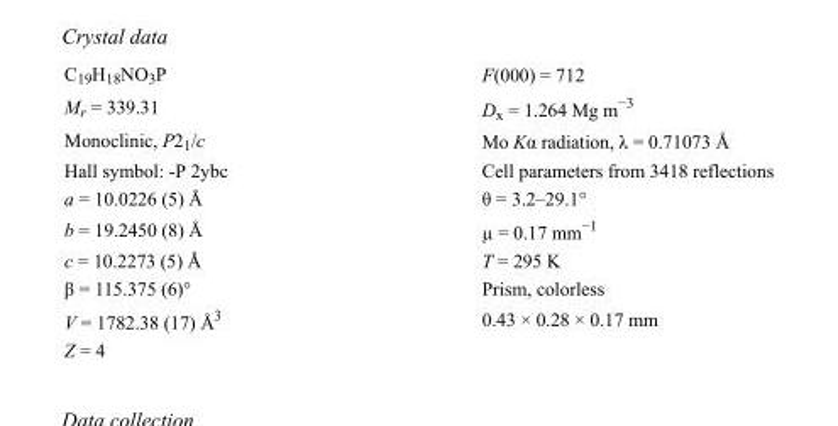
<table><tbody><tr><td>C<sub>19</sub>H<sub>18</sub>NO<sub>3</sub>P</td><td>F(000) = 712</td></tr><tr><td>M<sub>r</sub> = 339.31</td><td>D<sub>x</sub> = 1.264 Mg m<sup>−3</sup></td></tr><tr><td>Monoclinic, P2<sub>1</sub>/c</td><td>Mo Kα radiation, λ = 0.71073 Å</td></tr><tr><td>Hall symbol: -P 2ybc</td><td>Cell parameters from 3418 reflections</td></tr><tr><td>a = 10.0226 (5) Å</td><td>θ = 3.2–29.1°</td></tr><tr><td>b = 19.2450 (8) Å</td><td>µ = 0.17 mm<sup>−1</sup></td></tr><tr><td>c = 10.2273 (5) Å</td><td>T = 295 K</td></tr><tr><td>β = 115.375 (6)°</td><td>Prism, colorless</td></tr><tr><td>V = 1782.38 (17) Å<sup>3</sup></td><td>0.43 × 0.28 × 0.17 mm</td></tr><tr><td>Z = 4</td><td></td></tr></tbody></table>